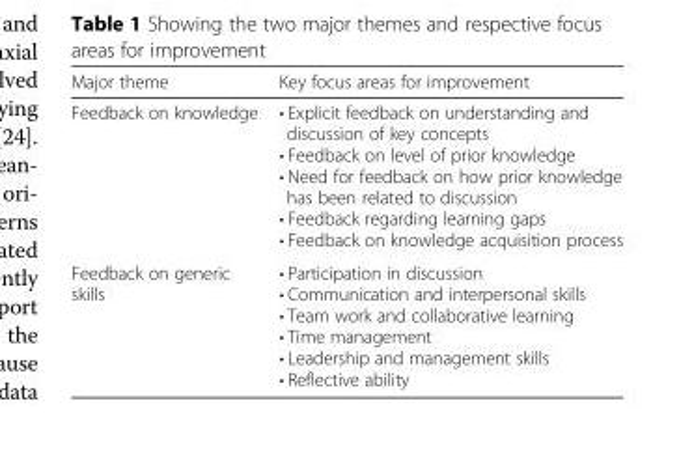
<table><thead><tr><td>Major theme</td><td>Key focus areas for improvement</td></tr></thead><tbody><tr><td>Feedback on knowledge</td><td>• Explicit feedback on understanding and discussion of key concepts • Feedback on level of prior knowledge • Need for feedback on how prior knowledge has been related to discussion • Feedback regarding learning gaps • Feedback on knowledge acquisition process</td></tr><tr><td>Feedback on generic skills</td><td>• Participation in discussion • Communication and interpersonal skills • Team work and collaborative learning • Time management • Leadership and management skills • Reflective ability</td></tr></tbody></table>